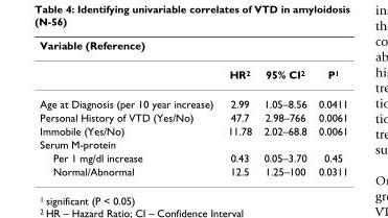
<table><thead><tr><td>Variable (Reference)</td><td></td><td></td><td></td></tr></thead><tbody><tr><td></td><td>HR<sup>2</sup></td><td>95% CI<sup>2</sup></td><td>P<sup>1</sup></td></tr><tr><td>Age at Diagnosis (per 10 year increase)</td><td>2.99</td><td>1.05–8.56</td><td>0.0411</td></tr><tr><td>Personal History of VTD (Yes/No)</td><td>47.7</td><td>2.98–766</td><td>0.0061</td></tr><tr><td>Immobile (Yes/No)</td><td>11.78</td><td>2.02–68.8</td><td>0.0061</td></tr><tr><td colspan="4">Serum M-protein</td></tr><tr><td>Per 1 mg/dl increase</td><td>0.43</td><td>0.05–3.70</td><td>0.45</td></tr><tr><td>Normal/Abnormal</td><td>12.5</td><td>1.25–100</td><td>0.0311</td></tr></tbody></table>